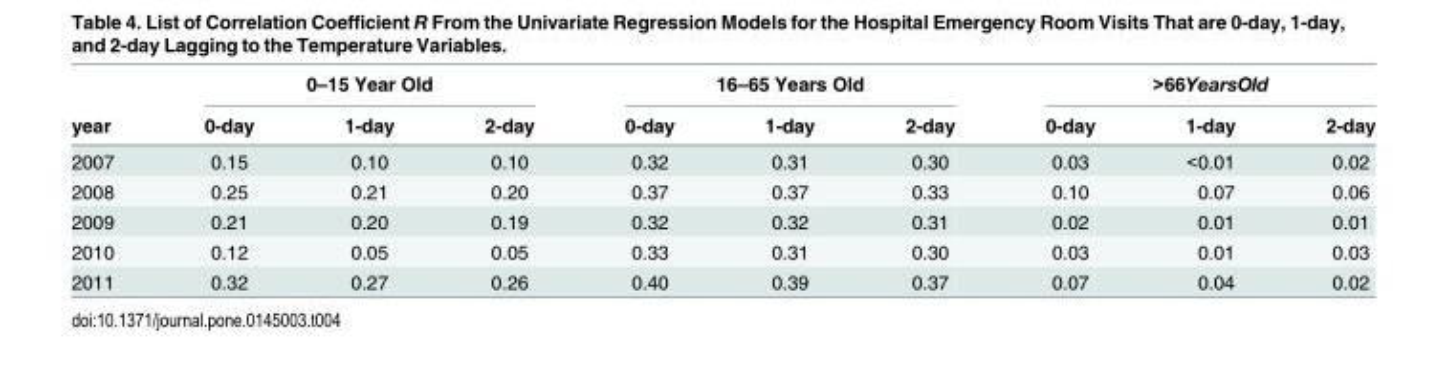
<table><thead><tr><td rowspan="2">year</td><td colspan="3">0–15 Year Old</td><td colspan="3">16–65 Years Old</td><td colspan="3">&gt;66YearsOld</td></tr><tr><td>0-day</td><td>1-day</td><td>2-day</td><td>0-day</td><td>1-day</td><td>2-day</td><td>0-day</td><td>1-day</td><td>2-day</td></tr></thead><tbody><tr><td>2007</td><td>0.15</td><td>0.10</td><td>0.10</td><td>0.32</td><td>0.31</td><td>0.30</td><td>0.03</td><td>&lt;0.01</td><td>0.02</td></tr><tr><td>2008</td><td>0.25</td><td>0.21</td><td>0.20</td><td>0.37</td><td>0.37</td><td>0.33</td><td>0.10</td><td>0.07</td><td>0.06</td></tr><tr><td>2009</td><td>0.21</td><td>0.20</td><td>0.19</td><td>0.32</td><td>0.32</td><td>0.31</td><td>0.02</td><td>0.01</td><td>0.01</td></tr><tr><td>2010</td><td>0.12</td><td>0.05</td><td>0.05</td><td>0.33</td><td>0.31</td><td>0.30</td><td>0.03</td><td>0.01</td><td>0.03</td></tr><tr><td>2011</td><td>0.32</td><td>0.27</td><td>0.26</td><td>0.40</td><td>0.39</td><td>0.37</td><td>0.07</td><td>0.04</td><td>0.02</td></tr></tbody></table>